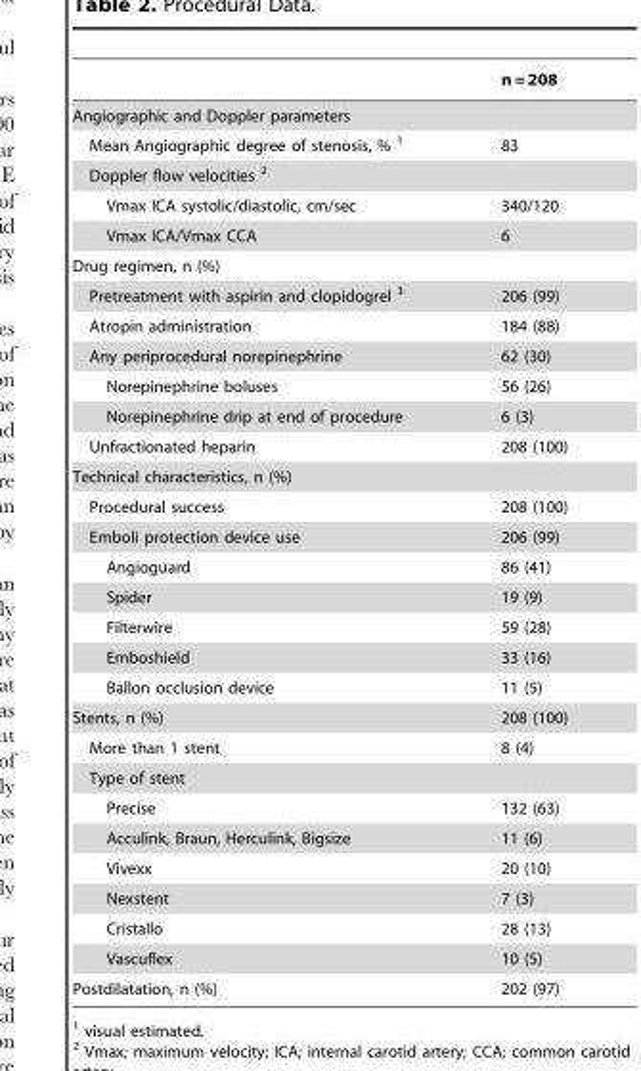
<table><thead><tr><td></td><td>n = 208</td></tr></thead><tbody><tr><td colspan="2">Angiographic and Doppler parameters</td></tr><tr><td>Mean Angiographic degree of stenosis, % <sup>1</sup></td><td>83</td></tr><tr><td colspan="2">Doppler flow velocities <sup>2</sup></td></tr><tr><td>Vmax ICA systolic/diastolic, cm/sec</td><td>340/120</td></tr><tr><td>Vmax ICA/Vmax CCA</td><td>6</td></tr><tr><td colspan="2">Drug regimen, n (%)</td></tr><tr><td>Pretreatment with aspirin and clopidogrel <sup>3</sup></td><td>206 (99)</td></tr><tr><td>Atropin administration</td><td>184 (88)</td></tr><tr><td>Any periprocedural norepinephrine</td><td>62 (30)</td></tr><tr><td>Norepinephrine boluses</td><td>56 (26)</td></tr><tr><td>Norepinephrine drip at end of procedure</td><td>6 (3)</td></tr><tr><td>Unfractionated heparin</td><td>208 (100)</td></tr><tr><td colspan="2">Technical characteristics, n (%)</td></tr><tr><td>Procedural success</td><td>208 (100)</td></tr><tr><td>Emboli protection device use</td><td>206 (99)</td></tr><tr><td>Angioguard</td><td>86 (41)</td></tr><tr><td>Spider</td><td>19 (9)</td></tr><tr><td>Filterwire</td><td>59 (28)</td></tr><tr><td>Emboshield</td><td>33 (16)</td></tr><tr><td>Ballon occlusion device</td><td>11 (5)</td></tr><tr><td>Stents, n (%)</td><td>208 (100)</td></tr><tr><td>More than 1 stent</td><td>8 (4)</td></tr><tr><td colspan="2">Type of stent</td></tr><tr><td>Precise</td><td>132 (63)</td></tr><tr><td>Acculink, Braun, Herculink, Bigsize</td><td>11 (6)</td></tr><tr><td>Vivexx</td><td>20 (10)</td></tr><tr><td>Nexstent</td><td>7 (3)</td></tr><tr><td>Cristallo</td><td>28 (13)</td></tr><tr><td>Vascuflex</td><td>10 (5)</td></tr><tr><td>Postdilatation, n (%)</td><td>202 (97)</td></tr></tbody></table>